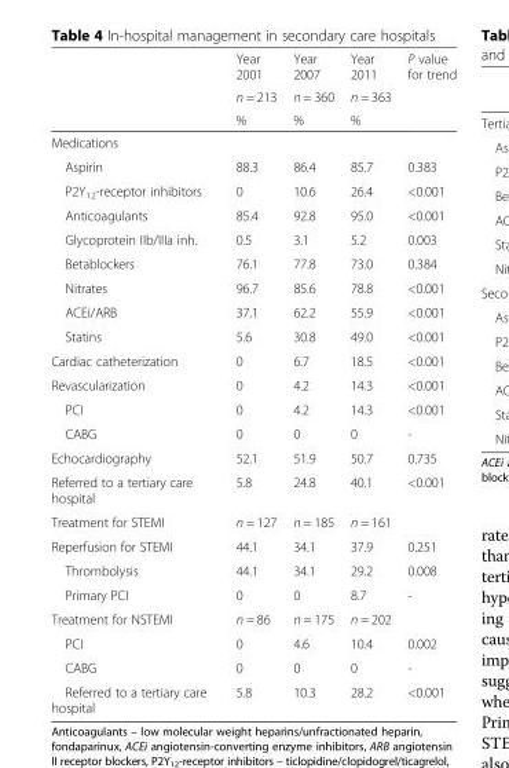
<table><thead><tr><td rowspan="3"></td><td rowspan="3">Year 2001 n = 213 %</td><td rowspan="3">Year 2007 n = 360 %</td><td rowspan="3">Year 2011 n = 363 %</td><td rowspan="3">P value for trend</td></tr><tr></tr><tr></tr></thead><tbody><tr><td colspan="5">Medications</td></tr><tr><td>Aspirin</td><td>88.3</td><td>86.4</td><td>85.7</td><td>0.383</td></tr><tr><td>P2Y<sub>12</sub>-receptor inhibitors</td><td>0</td><td>10.6</td><td>26.4</td><td>&lt;0.001</td></tr><tr><td>Anticoagulants</td><td>85.4</td><td>92.8</td><td>95.0</td><td>&lt;0.001</td></tr><tr><td>Glycoprotein IIb/IIIa inh.</td><td>0.5</td><td>3.1</td><td>5.2</td><td>0.003</td></tr><tr><td>Betablockers</td><td>76.1</td><td>77.8</td><td>73.0</td><td>0.384</td></tr><tr><td>Nitrates</td><td>96.7</td><td>85.6</td><td>78.8</td><td>&lt;0.001</td></tr><tr><td>ACEi/ARB</td><td>37.1</td><td>62.2</td><td>55.9</td><td>&lt;0.001</td></tr><tr><td>Statins</td><td>5.6</td><td>30.8</td><td>49.0</td><td>&lt;0.001</td></tr><tr><td>Cardiac catheterization</td><td>0</td><td>6.7</td><td>18.5</td><td>&lt;0.001</td></tr><tr><td>Revascularization</td><td>0</td><td>4.2</td><td>14.3</td><td>&lt;0.001</td></tr><tr><td>PCI</td><td>0</td><td>4.2</td><td>14.3</td><td>&lt;0.001</td></tr><tr><td>CABG</td><td>0</td><td>0</td><td>0</td><td>-</td></tr><tr><td>Echocardiography</td><td>52.1</td><td>51.9</td><td>50.7</td><td>0.735</td></tr><tr><td>Referred to a tertiary care hospital</td><td>5.8</td><td>24.8</td><td>40.1</td><td>&lt;0.001</td></tr><tr><td>Treatment for STEMI</td><td>n = 127</td><td>n = 185</td><td>n = 161</td><td></td></tr><tr><td>Reperfusion for STEMI</td><td>44.1</td><td>34.1</td><td>37.9</td><td>0.251</td></tr><tr><td>Thrombolysis</td><td>44.1</td><td>34.1</td><td>29.2</td><td>0.008</td></tr><tr><td>Primary PCI</td><td>0</td><td>0</td><td>8.7</td><td>-</td></tr><tr><td>Treatment for NSTEMI</td><td>n = 86</td><td>n = 175</td><td>n = 202</td><td></td></tr><tr><td>PCI</td><td>0</td><td>4.6</td><td>10.4</td><td>0.002</td></tr><tr><td>CABG</td><td>0</td><td>0</td><td>0</td><td>-</td></tr><tr><td>Referred to a tertiary care hospital</td><td>5.8</td><td>10.3</td><td>28.2</td><td>&lt;0.001</td></tr></tbody></table>